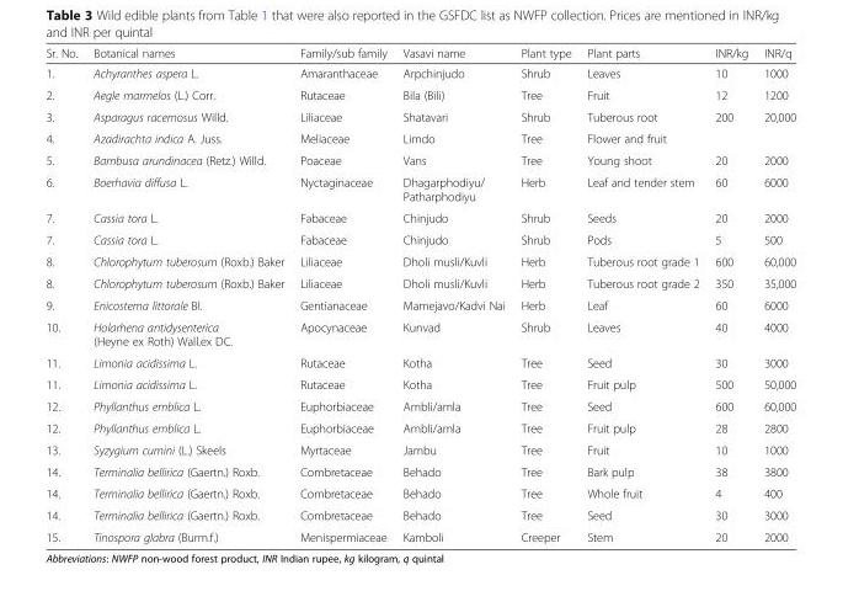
<table><thead><tr><td>Sr. No.</td><td>Botanical names</td><td>Family/sub family</td><td>Vasavi name</td><td>Plant type</td><td>Plant parts</td><td>INR/kg</td><td>INR/q</td></tr></thead><tbody><tr><td>1.</td><td>Achyranthes aspera L.</td><td>Amaranthaceae</td><td>Arpchinjudo</td><td>Shrub</td><td>Leaves</td><td>10</td><td>1000</td></tr><tr><td>2.</td><td>Aegle marmelos (L.) Corr.</td><td>Rutaceae</td><td>Bila (Bili)</td><td>Tree</td><td>Fruit</td><td>12</td><td>1200</td></tr><tr><td>3.</td><td>Asparagus racemosus Willd.</td><td>Liliaceae</td><td>Shatavari</td><td>Shrub</td><td>Tuberous root</td><td>200</td><td>20,000</td></tr><tr><td>4.</td><td>Azadirachta indica A. Juss.</td><td>Meliaceae</td><td>Limdo</td><td>Tree</td><td>Flower and fruit</td><td></td><td></td></tr><tr><td>5.</td><td>Bambusa arundinacea (Retz.) Willd.</td><td>Poaceae</td><td>Vans</td><td>Tree</td><td>Young shoot</td><td>20</td><td>2000</td></tr><tr><td>6.</td><td>Boerhavia diffusa L.</td><td>Nyctaginaceae</td><td>Dhagarphodiyu/ Patharphodiyu</td><td>Herb</td><td>Leaf and tender stem</td><td>60</td><td>6000</td></tr><tr><td>7.</td><td>Cassia tora L.</td><td>Fabaceae</td><td>Chinjudo</td><td>Shrub</td><td>Seeds</td><td>20</td><td>2000</td></tr><tr><td>7.</td><td>Cassia tora L.</td><td>Fabaceae</td><td>Chinjudo</td><td>Shrub</td><td>Pods</td><td>5</td><td>500</td></tr><tr><td>8.</td><td>Chlorophytum tuberosum (Roxb.) Baker</td><td>Liliaceae</td><td>Dholi musli/Kuvli</td><td>Herb</td><td>Tuberous root grade 1</td><td>600</td><td>60,000</td></tr><tr><td>8.</td><td>Chlorophytum tuberosum (Roxb.) Baker</td><td>Liliaceae</td><td>Dholi musli/Kuvli</td><td>Herb</td><td>Tuberous root grade 2</td><td>350</td><td>35,000</td></tr><tr><td>9.</td><td>Enicostema littorale Bl.</td><td>Gentianaceae</td><td>Mamejavo/Kadvi Nai</td><td>Herb</td><td>Leaf</td><td>60</td><td>6000</td></tr><tr><td>10.</td><td>Holarhena antidysenterica (Heyne ex Roth) Wall.ex DC.</td><td>Apocynaceae</td><td>Kunvad</td><td>Shrub</td><td>Leaves</td><td>40</td><td>4000</td></tr><tr><td>11.</td><td>Limonia acidissima L.</td><td>Rutaceae</td><td>Kotha</td><td>Tree</td><td>Seed</td><td>30</td><td>3000</td></tr><tr><td>11.</td><td>Limonia acidissima L.</td><td>Rutaceae</td><td>Kotha</td><td>Tree</td><td>Fruit pulp</td><td>500</td><td>50,000</td></tr><tr><td>12.</td><td>Phyllanthus emblica L.</td><td>Euphorbiaceae</td><td>Ambli/amla</td><td>Tree</td><td>Seed</td><td>600</td><td>60,000</td></tr><tr><td>12.</td><td>Phyllanthus emblica L.</td><td>Euphorbiaceae</td><td>Ambli/amla</td><td>Tree</td><td>Fruit pulp</td><td>28</td><td>2800</td></tr><tr><td>13.</td><td>Syzygium cumini (L.) Skeels</td><td>Myrtaceae</td><td>Jambu</td><td>Tree</td><td>Fruit</td><td>10</td><td>1000</td></tr><tr><td>14.</td><td>Terminalia bellirica (Gaertn.) Roxb.</td><td>Combretaceae</td><td>Behado</td><td>Tree</td><td>Bark pulp</td><td>38</td><td>3800</td></tr><tr><td>14.</td><td>Terminalia bellirica (Gaertn.) Roxb.</td><td>Combretaceae</td><td>Behado</td><td>Tree</td><td>Whole fruit</td><td>4</td><td>400</td></tr><tr><td>14.</td><td>Terminalia bellirica (Gaertn.) Roxb.</td><td>Combretaceae</td><td>Behado</td><td>Tree</td><td>Seed</td><td>30</td><td>3000</td></tr><tr><td>15.</td><td>Tinospora glabra (Burm.f.)</td><td>Menispermiaceae</td><td>Kamboli</td><td>Creeper</td><td>Stem</td><td>20</td><td>2000</td></tr></tbody></table>